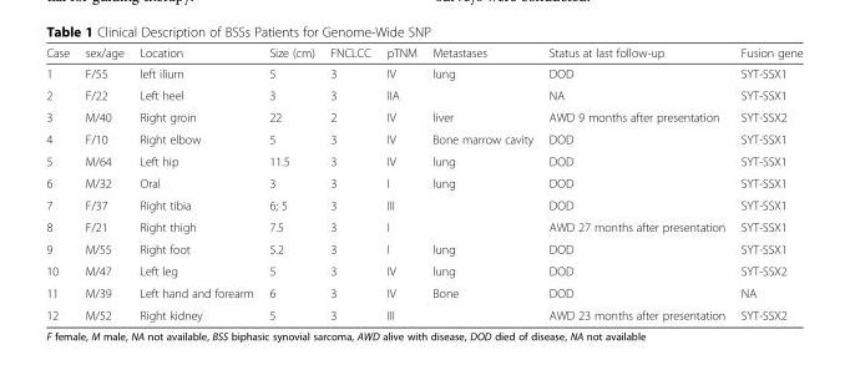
<table><thead><tr><td>Case</td><td>sex/age</td><td>Location</td><td>Size (cm)</td><td>FNCLCC</td><td>pTNM</td><td>Metastases</td><td>Status at last follow-up</td><td>Fusion gene</td></tr></thead><tbody><tr><td>1</td><td>F/55</td><td>left ilium</td><td>5</td><td>3</td><td>IV</td><td>lung</td><td>DOD</td><td>SYT-SSX1</td></tr><tr><td>2</td><td>F/22</td><td>Left heel</td><td>3</td><td>3</td><td>IIA</td><td></td><td>NA</td><td>SYT-SSX1</td></tr><tr><td>3</td><td>M/40</td><td>Right groin</td><td>22</td><td>2</td><td>IV</td><td>liver</td><td>AWD 9 months after presentation</td><td>SYT-SSX2</td></tr><tr><td>4</td><td>F/10</td><td>Right elbow</td><td>5</td><td>3</td><td>IV</td><td>Bone marrow cavity</td><td>DOD</td><td>SYT-SSX1</td></tr><tr><td>5</td><td>M/64</td><td>Left hip</td><td>11.5</td><td>3</td><td>IV</td><td>lung</td><td>DOD</td><td>SYT-SSX1</td></tr><tr><td>6</td><td>M/32</td><td>Oral</td><td>3</td><td>3</td><td>I</td><td>lung</td><td>DOD</td><td>SYT-SSX1</td></tr><tr><td>7</td><td>F/37</td><td>Right tibia</td><td>6; 5</td><td>3</td><td>III</td><td></td><td>DOD</td><td>SYT-SSX1</td></tr><tr><td>8</td><td>F/21</td><td>Right thigh</td><td>7.5</td><td>3</td><td>I</td><td></td><td>AWD 27 months after presentation</td><td>SYT-SSX1</td></tr><tr><td>9</td><td>M/55</td><td>Right foot</td><td>5.2</td><td>3</td><td>I</td><td>lung</td><td>DOD</td><td>SYT-SSX1</td></tr><tr><td>10</td><td>M/47</td><td>Left leg</td><td>5</td><td>3</td><td>IV</td><td>lung</td><td>DOD</td><td>SYT-SSX2</td></tr><tr><td>11</td><td>M/39</td><td>Left hand and forearm</td><td>6</td><td>3</td><td>IV</td><td>Bone</td><td>DOD</td><td>NA</td></tr><tr><td>12</td><td>M/52</td><td>Right kidney</td><td>5</td><td>3</td><td>III</td><td></td><td>AWD 23 months after presentation</td><td>SYT-SSX2</td></tr></tbody></table>